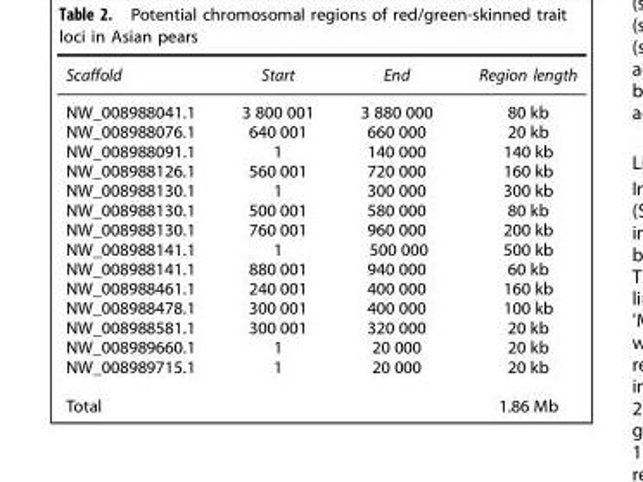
<table><thead><tr><td>Scaffold</td><td>Start</td><td>End</td><td>Region length</td></tr></thead><tbody><tr><td>NW_008988041.1</td><td>3 800 001</td><td>3 880 000</td><td>80 kb</td></tr><tr><td>NW_008988076.1</td><td>640 001</td><td>660 000</td><td>20 kb</td></tr><tr><td>NW_008988091.1</td><td>1</td><td>140 000</td><td>140 kb</td></tr><tr><td>NW_008988126.1</td><td>560 001</td><td>720 000</td><td>160 kb</td></tr><tr><td>NW_008988130.1</td><td>1</td><td>300 000</td><td>300 kb</td></tr><tr><td>NW_008988130.1</td><td>500 001</td><td>580 000</td><td>80 kb</td></tr><tr><td>NW_008988130.1</td><td>760 001</td><td>960 000</td><td>200 kb</td></tr><tr><td>NW_008988141.1</td><td>1</td><td>500 000</td><td>500 kb</td></tr><tr><td>NW_008988141.1</td><td>880 001</td><td>940 000</td><td>60 kb</td></tr><tr><td>NW_008988461.1</td><td>240 001</td><td>400 000</td><td>160 kb</td></tr><tr><td>NW_008988478.1</td><td>300 001</td><td>400 000</td><td>100 kb</td></tr><tr><td>NW_008988581.1</td><td>300 001</td><td>320 000</td><td>20 kb</td></tr><tr><td>NW_008989660.1</td><td>1</td><td>20 000</td><td>20 kb</td></tr><tr><td>NW_008989715.1</td><td>1</td><td>20 000</td><td>20 kb</td></tr><tr><td>Total</td><td></td><td></td><td>1.86 Mb</td></tr></tbody></table>